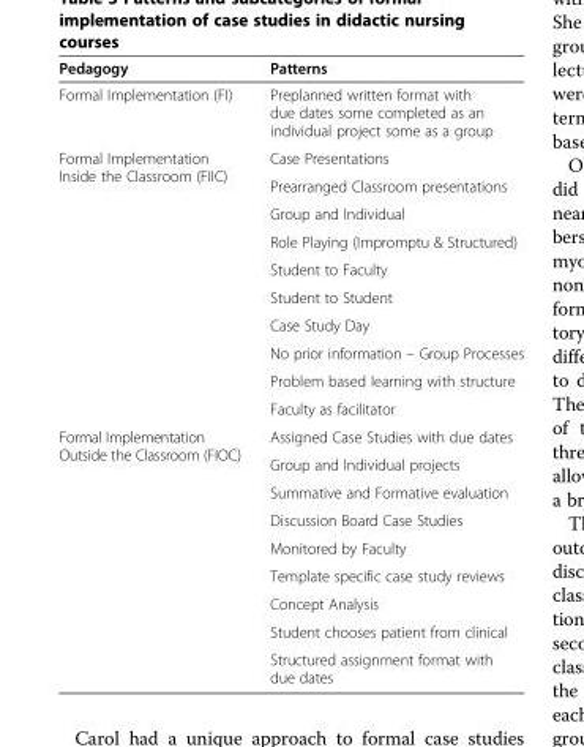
<table><thead><tr><td>Pedagogy</td><td>Patterns</td></tr></thead><tbody><tr><td>Formal Implementation (FI)</td><td>Preplanned written format with due dates some completed as an individual project some as a group</td></tr><tr><td rowspan="10">Formal Implementation Inside the Classroom (FIIC)</td><td>Case Presentations</td></tr><tr><td>Prearranged Classroom presentations</td></tr><tr><td>Group and Individual</td></tr><tr><td>Role Playing (Impromptu &amp; Structured)</td></tr><tr><td>Student to Faculty</td></tr><tr><td>Student to Student</td></tr><tr><td>Case Study Day</td></tr><tr><td>No prior information – Group Processes</td></tr><tr><td>Problem based learning with structure</td></tr><tr><td>Faculty as facilitator</td></tr><tr><td rowspan="9">Formal Implementation Outside the Classroom (FIOC)</td><td>Assigned Case Studies with due dates</td></tr><tr><td>Group and Individual projects</td></tr><tr><td>Summative and Formative evaluation</td></tr><tr><td>Discussion Board Case Studies</td></tr><tr><td>Monitored by Faculty</td></tr><tr><td>Template specific case study reviews</td></tr><tr><td>Concept Analysis</td></tr><tr><td>Student chooses patient from clinical</td></tr><tr><td>Structured assignment format with due dates</td></tr></tbody></table>